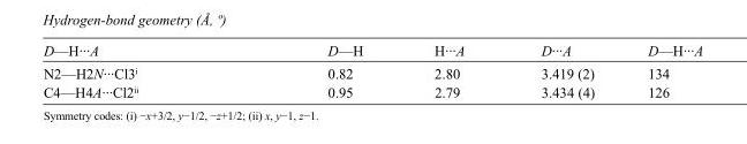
<table><tbody><tr><td>D—H···A</td><td>D—H</td><td>H···A</td><td>D···A</td><td>D—H···A</td></tr><tr><td>N2—H2N···Cl3<sup>i</sup></td><td>0.82</td><td>2.80</td><td>3.419 (2)</td><td>134</td></tr><tr><td>C4—H4A···Cl2<sup>ii</sup></td><td>0.95</td><td>2.79</td><td>3.434 (4)</td><td>126</td></tr></tbody></table>